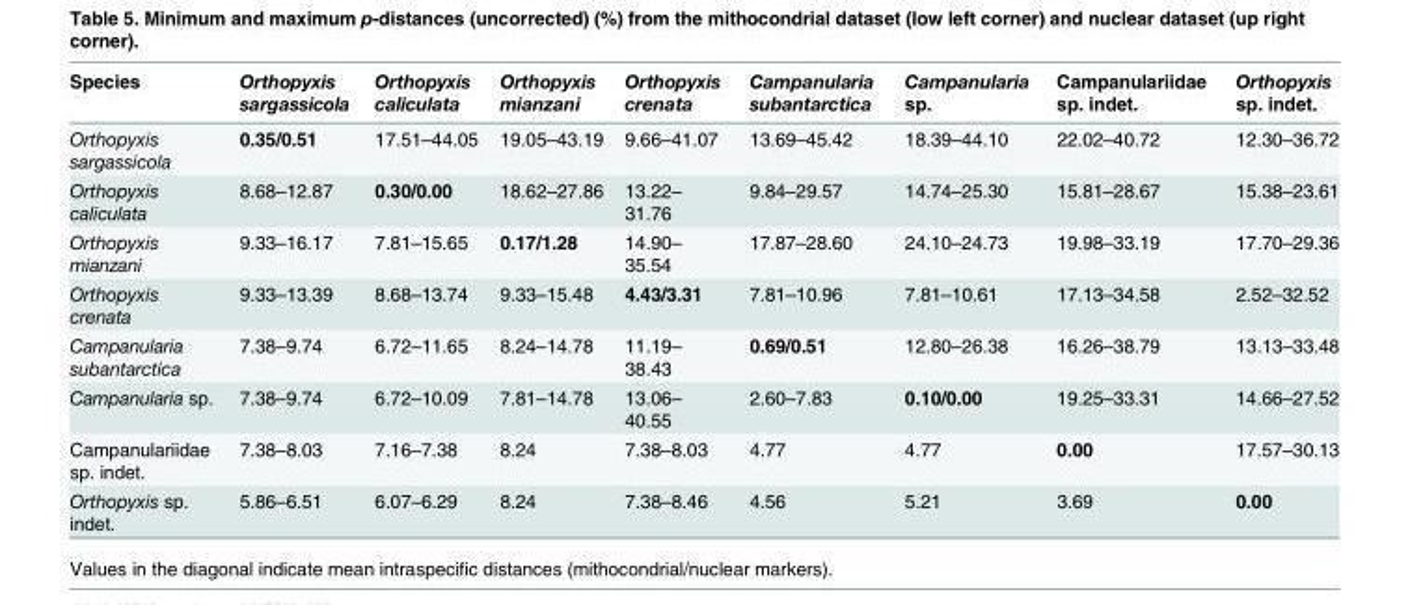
<table><thead><tr><td>Species</td><td>Orthopyxis sargassicola</td><td>Orthopyxis caliculata</td><td>Orthopyxis mianzani</td><td>Orthopyxis crenata</td><td>Campanularia subantarctica</td><td>Campanularia sp.</td><td>Campanulariidae sp. indet.</td><td>Orthopyxis sp. indet.</td></tr></thead><tbody><tr><td>Orthopyxis sargassicola</td><td>0.35/0.51</td><td>17.51–44.05</td><td>19.05–43.19</td><td>9.66–41.07</td><td>13.69–45.42</td><td>18.39–44.10</td><td>22.02–40.72</td><td>12.30–36.72</td></tr><tr><td>Orthopyxis caliculata</td><td>8.68–12.87</td><td>0.30/0.00</td><td>18.62–27.86</td><td>13.22– 31.76</td><td>9.84–29.57</td><td>14.74–25.30</td><td>15.81–28.67</td><td>15.38–23.61</td></tr><tr><td>Orthopyxis mianzani</td><td>9.33–16.17</td><td>7.81–15.65</td><td>0.17/1.28</td><td>14.90– 35.54</td><td>17.87–28.60</td><td>24.10–24.73</td><td>19.98–33.19</td><td>17.70–29.36</td></tr><tr><td>Orthopyxis crenata</td><td>9.33–13.39</td><td>8.68–13.74</td><td>9.33–15.48</td><td>4.43/3.31</td><td>7.81–10.96</td><td>7.81–10.61</td><td>17.13–34.58</td><td>2.52–32.52</td></tr><tr><td>Campanularia subantarctica</td><td>7.38–9.74</td><td>6.72–11.65</td><td>8.24–14.78</td><td>11.19– 38.43</td><td>0.69/0.51</td><td>12.80–26.38</td><td>16.26–38.79</td><td>13.13–33.48</td></tr><tr><td>Campanularia sp.</td><td>7.38–9.74</td><td>6.72–10.09</td><td>7.81–14.78</td><td>13.06– 40.55</td><td>2.60–7.83</td><td>0.10/0.00</td><td>19.25–33.31</td><td>14.66–27.52</td></tr><tr><td>Campanulariidae sp. indet.</td><td>7.38–8.03</td><td>7.16–7.38</td><td>8.24</td><td>7.38–8.03</td><td>4.77</td><td>4.77</td><td>0.00</td><td>17.57–30.13</td></tr><tr><td>Orthopyxis sp. indet.</td><td>5.86–6.51</td><td>6.07–6.29</td><td>8.24</td><td>7.38–8.46</td><td>4.56</td><td>5.21</td><td>3.69</td><td>0.00</td></tr></tbody></table>